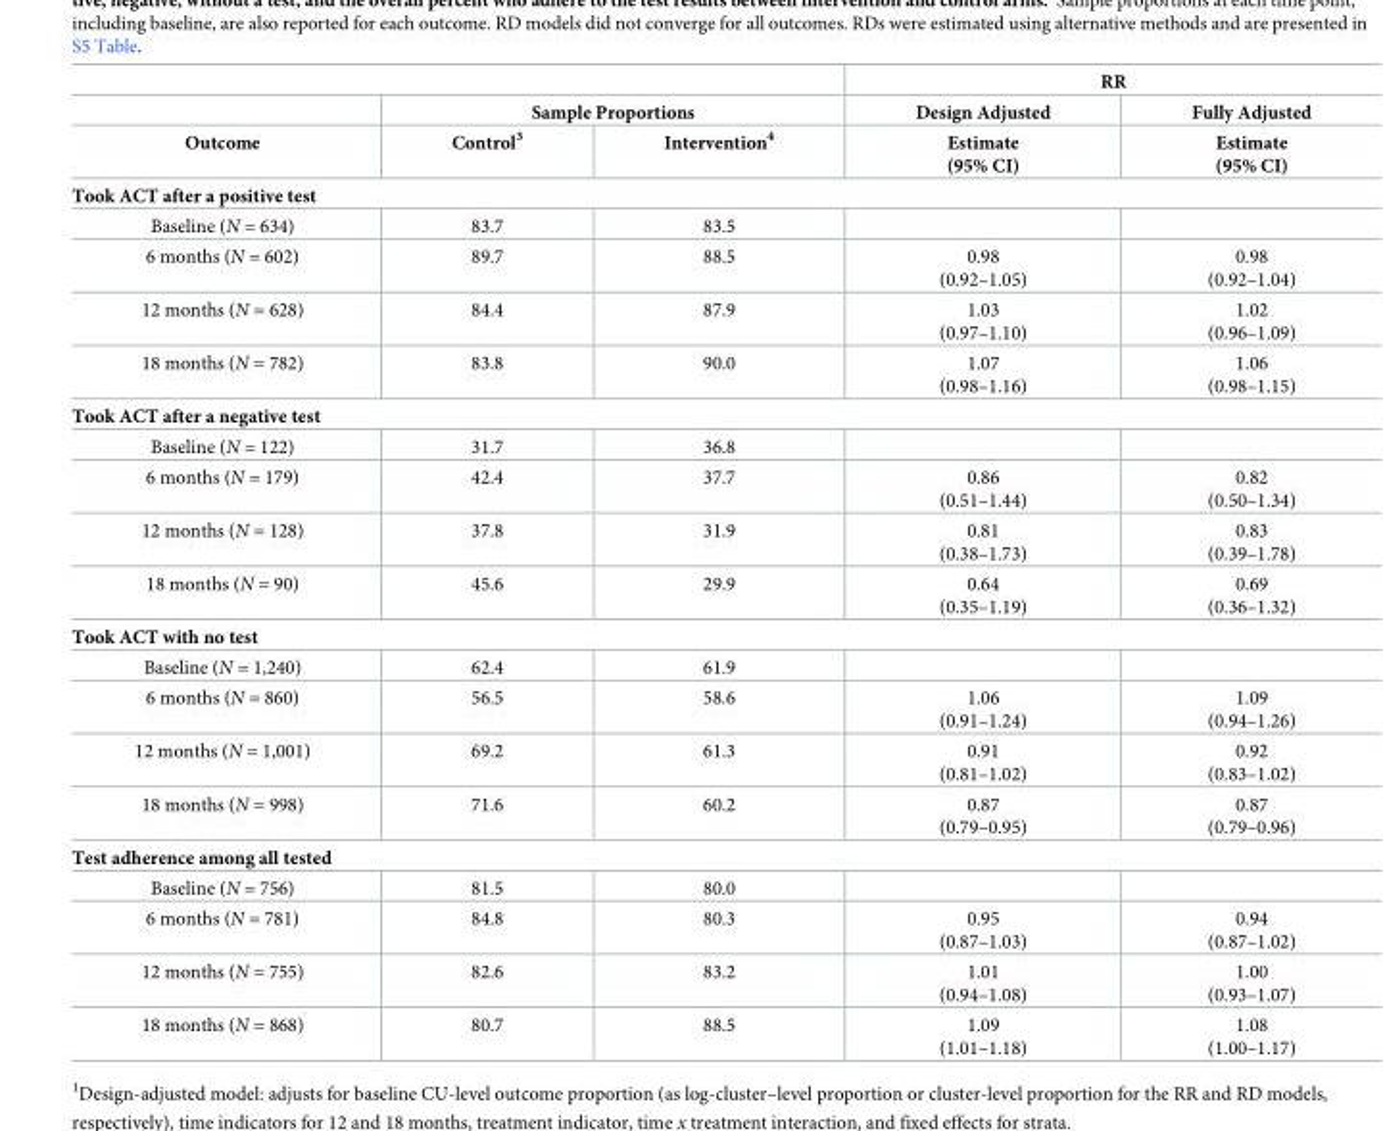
<table><thead><tr><td rowspan="3">Outcome</td><td></td><td></td><td colspan="2">RR</td></tr><tr><td colspan="2">Sample Proportions</td><td rowspan="2">Design Adjusted Estimate (95% CI)</td><td rowspan="2">Fully Adjusted Estimate (95% CI)</td></tr><tr><td>Control<sup>3</sup></td><td>Intervention<sup>4</sup></td></tr></thead><tbody><tr><td colspan="5">Took ACT after a positive test</td></tr><tr><td>Baseline (N = 634)</td><td>83.7</td><td>83.5</td><td></td><td></td></tr><tr><td>6 months (N = 602)</td><td>89.7</td><td>88.5</td><td>0.98 (0.92–1.05)</td><td>0.98 (0.92–1.04)</td></tr><tr><td>12 months (N = 628)</td><td>84.4</td><td>87.9</td><td>1.03 (0.97–1.10)</td><td>1.02 (0.96–1.09)</td></tr><tr><td>18 months (N = 782)</td><td>83.8</td><td>90.0</td><td>1.07 (0.98–1.16)</td><td>1.06 (0.98–1.15)</td></tr><tr><td colspan="5">Took ACT after a negative test</td></tr><tr><td>Baseline (N = 122)</td><td>31.7</td><td>36.8</td><td></td><td></td></tr><tr><td>6 months (N = 179)</td><td>42.4</td><td>37.7</td><td>0.86 (0.51–1.44)</td><td>0.82 (0.50–1.34)</td></tr><tr><td>12 months (N = 128)</td><td>37.8</td><td>31.9</td><td>0.81 (0.38–1.73)</td><td>0.83 (0.39–1.78)</td></tr><tr><td>18 months (N = 90)</td><td>45.6</td><td>29.9</td><td>0.64 (0.35–1.19)</td><td>0.69 (0.36–1.32)</td></tr><tr><td colspan="5">Took ACT with no test</td></tr><tr><td>Baseline (N = 1,240)</td><td>62.4</td><td>61.9</td><td></td><td></td></tr><tr><td>6 months (N = 860)</td><td>56.5</td><td>58.6</td><td>1.06 (0.91–1.24)</td><td>1.09 (0.94–1.26)</td></tr><tr><td>12 months (N = 1,001)</td><td>69.2</td><td>61.3</td><td>0.91 (0.81–1.02)</td><td>0.92 (0.83–1.02)</td></tr><tr><td>18 months (N = 998)</td><td>71.6</td><td>60.2</td><td>0.87 (0.79–0.95)</td><td>0.87 (0.79–0.96)</td></tr><tr><td colspan="5">Test adherence among all tested</td></tr><tr><td>Baseline (N = 756)</td><td>81.5</td><td>80.0</td><td></td><td></td></tr><tr><td>6 months (N = 781)</td><td>84.8</td><td>80.3</td><td>0.95 (0.87–1.03)</td><td>0.94 (0.87–1.02)</td></tr><tr><td>12 months (N = 755)</td><td>82.6</td><td>83.2</td><td>1.01 (0.94–1.08)</td><td>1.00 (0.93–1.07)</td></tr><tr><td>18 months (N = 868)</td><td>80.7</td><td>88.5</td><td>1.09 (1.01–1.18)</td><td>1.08 (1.00–1.17)</td></tr></tbody></table>